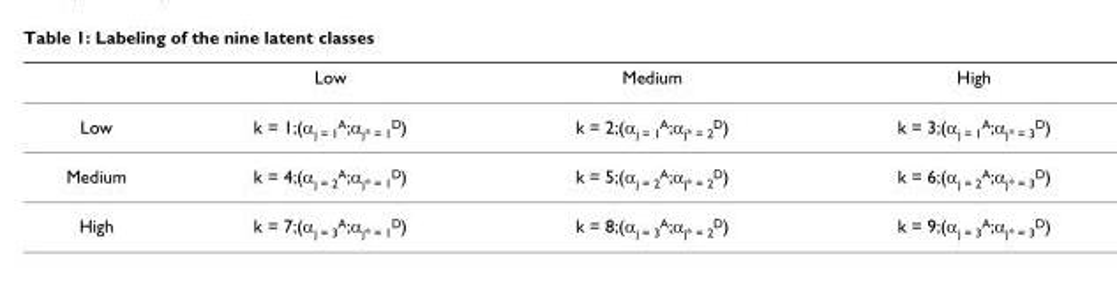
<table><thead><tr><td></td><td>Low</td><td>Medium</td><td>High</td></tr></thead><tbody><tr><td>Low</td><td>k = 1;(α<sub>j = 1</sub><sup>A</sup>;α<sub>j* = 1</sub><sup>D</sup>)</td><td>k = 2;(α<sub>j = 1</sub><sup>A</sup>;α<sub>j* = 2</sub><sup>D</sup>)</td><td>k = 3;(α<sub>j = 1</sub><sup>A</sup>;α<sub>j* = 3</sub><sup>D</sup>)</td></tr><tr><td>Medium</td><td>k = 4;(α<sub>j = 2</sub><sup>A</sup>;α<sub>j* = 1</sub><sup>D</sup>)</td><td>k = 5;(α<sub>j = 2</sub><sup>A</sup>;α<sub>j* = 2</sub><sup>D</sup>)</td><td>k = 6;(α<sub>j = 2</sub><sup>A</sup>;α<sub>j* = 3</sub><sup>D</sup>)</td></tr><tr><td>High</td><td>k = 7;(α<sub>j = 3</sub><sup>A</sup>;α<sub>j* = 1</sub><sup>D</sup>)</td><td>k = 8;(α<sub>j = 3</sub><sup>A</sup>;α<sub>j* = 2</sub><sup>D</sup>)</td><td>k = 9;(α<sub>j = 3</sub><sup>A</sup>;α<sub>j* = 3</sub><sup>D</sup>)</td></tr></tbody></table>